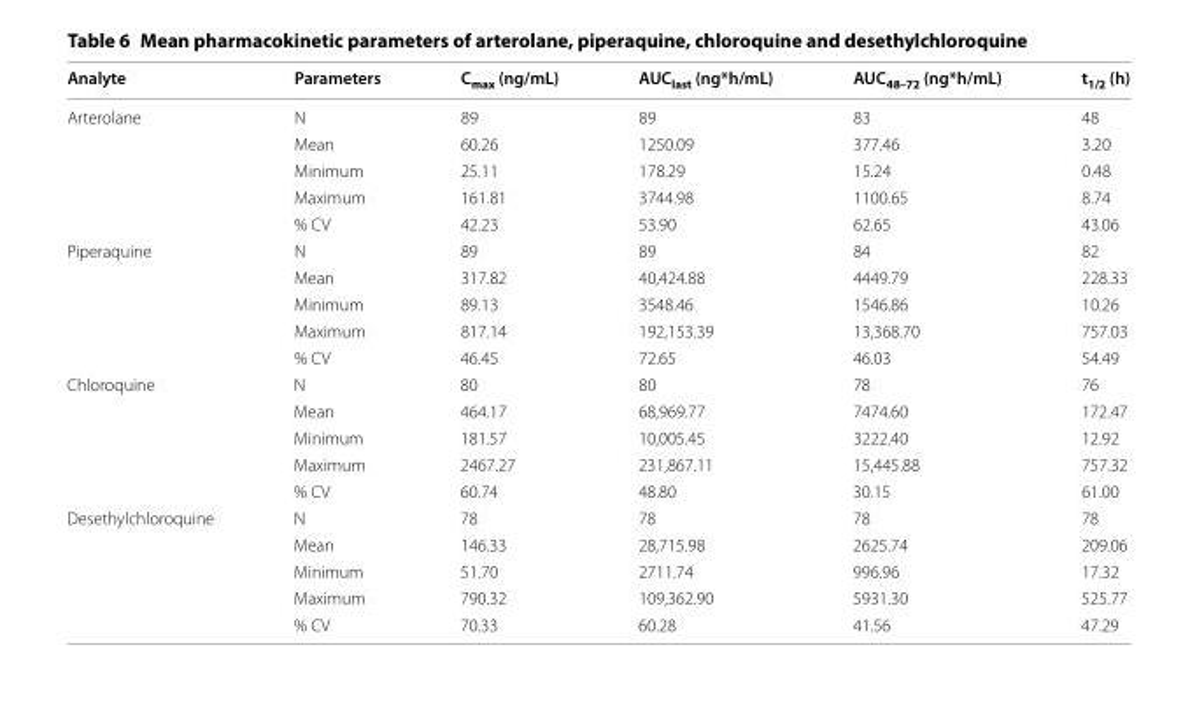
<table><thead><tr><td>Analyte</td><td>Parameters</td><td>C<sub>max</sub> (ng/mL)</td><td>AUC<sub>last</sub> (ng*h/mL)</td><td>AUC<sub>48–72</sub> (ng*h/mL)</td><td>t<sub>1/2</sub> (h)</td></tr></thead><tbody><tr><td rowspan="5">Arterolane</td><td>N</td><td>89</td><td>89</td><td>83</td><td>48</td></tr><tr><td>Mean</td><td>60.26</td><td>1250.09</td><td>377.46</td><td>3.20</td></tr><tr><td>Minimum</td><td>25.11</td><td>178.29</td><td>15.24</td><td>0.48</td></tr><tr><td>Maximum</td><td>161.81</td><td>3744.98</td><td>1100.65</td><td>8.74</td></tr><tr><td>% CV</td><td>42.23</td><td>53.90</td><td>62.65</td><td>43.06</td></tr><tr><td rowspan="5">Piperaquine</td><td>N</td><td>89</td><td>89</td><td>84</td><td>82</td></tr><tr><td>Mean</td><td>317.82</td><td>40,424.88</td><td>4449.79</td><td>228.33</td></tr><tr><td>Minimum</td><td>89.13</td><td>3548.46</td><td>1546.86</td><td>10.26</td></tr><tr><td>Maximum</td><td>817.14</td><td>192,153.39</td><td>13,368.70</td><td>757.03</td></tr><tr><td>% CV</td><td>46.45</td><td>72.65</td><td>46.03</td><td>54.49</td></tr><tr><td rowspan="5">Chloroquine</td><td>N</td><td>80</td><td>80</td><td>78</td><td>76</td></tr><tr><td>Mean</td><td>464.17</td><td>68,969.77</td><td>7474.60</td><td>172.47</td></tr><tr><td>Minimum</td><td>181.57</td><td>10,005.45</td><td>3222.40</td><td>12.92</td></tr><tr><td>Maximum</td><td>2467.27</td><td>231,867.11</td><td>15,445.88</td><td>757.32</td></tr><tr><td>% CV</td><td>60.74</td><td>48.80</td><td>30.15</td><td>61.00</td></tr><tr><td rowspan="5">Desethylchloroquine</td><td>N</td><td>78</td><td>78</td><td>78</td><td>78</td></tr><tr><td>Mean</td><td>146.33</td><td>28,715.98</td><td>2625.74</td><td>209.06</td></tr><tr><td>Minimum</td><td>51.70</td><td>2711.74</td><td>996.96</td><td>17.32</td></tr><tr><td>Maximum</td><td>790.32</td><td>109,362.90</td><td>5931.30</td><td>525.77</td></tr><tr><td>% CV</td><td>70.33</td><td>60.28</td><td>41.56</td><td>47.29</td></tr></tbody></table>